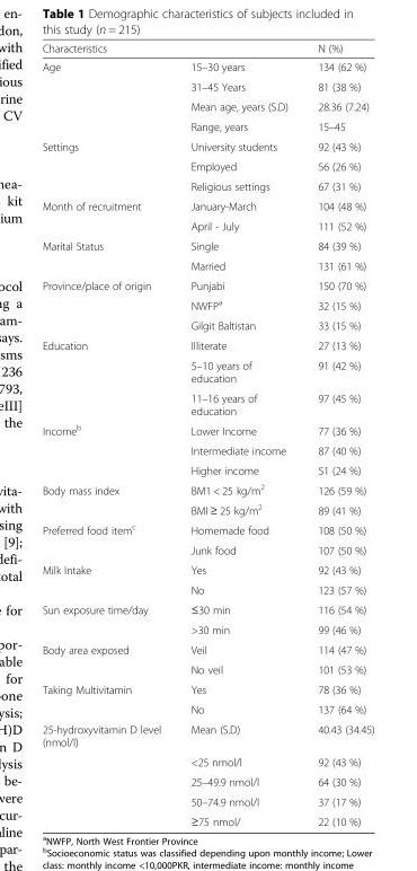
<table><thead><tr><td colspan="2">Characteristics</td><td rowspan="2">N (%) 134 (62 %)</td></tr><tr><td>Age</td><td>15–30 years</td></tr></thead><tbody><tr><td></td><td>31–45 Years</td><td>81 (38 %)</td></tr><tr><td></td><td>Mean age, years (S.D)</td><td>28.36 (7.24)</td></tr><tr><td></td><td>Range, years</td><td>15–45</td></tr><tr><td rowspan="3">Settings</td><td>University students</td><td>92 (43 %)</td></tr><tr><td>Employed</td><td>56 (26 %)</td></tr><tr><td>Religious settings</td><td>67 (31 %)</td></tr><tr><td rowspan="2">Month of recruitment</td><td>January-March</td><td>104 (48 %)</td></tr><tr><td>April - July</td><td>111 (52 %)</td></tr><tr><td rowspan="2">Marital Status</td><td>Single</td><td>84 (39 %)</td></tr><tr><td>Married</td><td>131 (61 %)</td></tr><tr><td rowspan="3">Province/place of origin</td><td>Punjabi</td><td>150 (70 %)</td></tr><tr><td>NWFP<sup>a</sup></td><td>32 (15 %)</td></tr><tr><td>Gilgit Baltistan</td><td>33 (15 %)</td></tr><tr><td rowspan="3">Education</td><td>Illiterate</td><td>27 (13 %)</td></tr><tr><td>5–10 years of education</td><td>91 (42 %)</td></tr><tr><td>11–16 years of education</td><td>97 (45 %)</td></tr><tr><td rowspan="3">Income<sup>b</sup></td><td>Lower Income</td><td>77 (36 %)</td></tr><tr><td>Intermediate income</td><td>87 (40 %)</td></tr><tr><td>Higher income</td><td>51 (24 %)</td></tr><tr><td rowspan="2">Body mass index</td><td>BM1 &lt; 25 kg/m<sup>2</sup></td><td>126 (59 %)</td></tr><tr><td>BMI ≥ 25 kg/m<sup>2</sup></td><td>89 (41 %)</td></tr><tr><td rowspan="2">Preferred food item<sup>c</sup></td><td>Homemade food</td><td>108 (50 %)</td></tr><tr><td>Junk food</td><td>107 (50 %)</td></tr><tr><td rowspan="2">Milk Intake</td><td>Yes</td><td>92 (43 %)</td></tr><tr><td>No</td><td>123 (57 %)</td></tr><tr><td rowspan="2">Sun exposure time/day</td><td>≤30 min</td><td>116 (54 %)</td></tr><tr><td>&gt;30 min</td><td>99 (46 %)</td></tr><tr><td rowspan="2">Body area exposed</td><td>Veil</td><td>114 (47 %)</td></tr><tr><td>No veil</td><td>101 (53 %)</td></tr><tr><td rowspan="2">Taking Multivitamin</td><td>Yes</td><td>78 (36 %)</td></tr><tr><td>No</td><td>137 (64 %)</td></tr><tr><td rowspan="5">25-hydroxyvitamin D level (nmol/l)</td><td>Mean (S.D)</td><td>40.43 (34.45)</td></tr><tr><td>&lt;25 nmol/l</td><td>92 (43 %)</td></tr><tr><td>25–49.9 nmol/l</td><td>64 (30 %)</td></tr><tr><td>50–74.9 nmol/l</td><td>37 (17 %)</td></tr><tr><td>≥75 nmol/</td><td>22 (10 %)</td></tr></tbody></table>